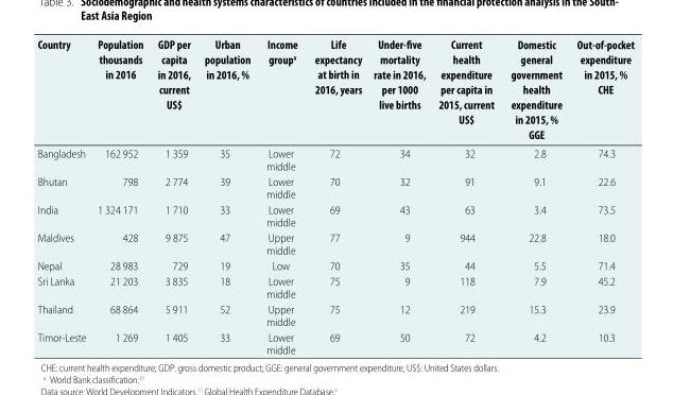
<table><thead><tr><td>Country</td><td>Population thousands in 2016</td><td>GDP per capita in 2016, current US$</td><td>Urban population in 2016, %</td><td>Income group<sup>a</sup></td><td>Life expectancy at birth in 2016, years</td><td>Under-five mortality rate in 2016, per 1000 live births</td><td>Current health expenditure per capita in 2015, current US$</td><td>Domestic general government health expenditure in 2015, % GGE</td><td>Out-of-pocket expenditure in 2015, % CHE</td></tr></thead><tbody><tr><td>Bangladesh</td><td>162 952</td><td>1 359</td><td>35</td><td>Lower middle</td><td>72</td><td>34</td><td>32</td><td>2.8</td><td>74.3</td></tr><tr><td>Bhutan</td><td>798</td><td>2 774</td><td>39</td><td>Lower middle</td><td>70</td><td>32</td><td>91</td><td>9.1</td><td>22.6</td></tr><tr><td>India</td><td>1 324 171</td><td>1 710</td><td>33</td><td>Lower middle</td><td>69</td><td>43</td><td>63</td><td>3.4</td><td>73.5</td></tr><tr><td>Maldives</td><td>428</td><td>9 875</td><td>47</td><td>Upper middle</td><td>77</td><td>9</td><td>944</td><td>22.8</td><td>18.0</td></tr><tr><td>Nepal</td><td>28 983</td><td>729</td><td>19</td><td>Low</td><td>70</td><td>35</td><td>44</td><td>5.5</td><td>71.4</td></tr><tr><td>Sri Lanka</td><td>21 203</td><td>3 835</td><td>18</td><td>Lower middle</td><td>75</td><td>9</td><td>118</td><td>7.9</td><td>45.2</td></tr><tr><td>Thailand</td><td>68 864</td><td>5 911</td><td>52</td><td>Upper middle</td><td>75</td><td>12</td><td>219</td><td>15.3</td><td>23.9</td></tr><tr><td>Timor-Leste</td><td>1 269</td><td>1 405</td><td>33</td><td>Lower middle</td><td>69</td><td>50</td><td>72</td><td>4.2</td><td>10.3</td></tr></tbody></table>